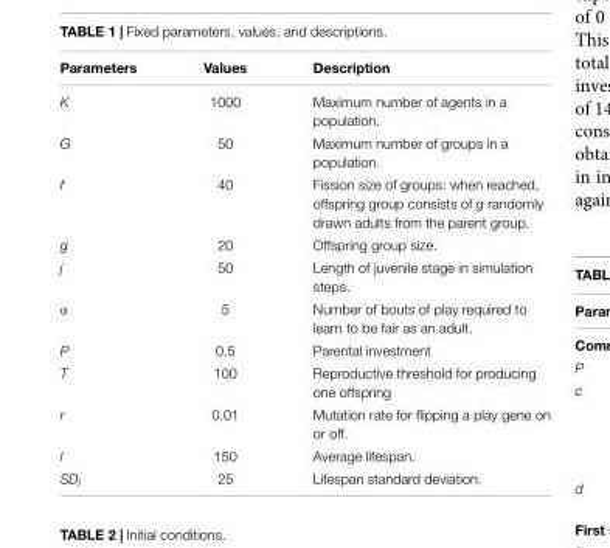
<table><thead><tr><td>Parameters</td><td>Values</td><td>Description</td></tr></thead><tbody><tr><td>K</td><td>1000</td><td>Maximum number of agents in a population.</td></tr><tr><td>G</td><td>50</td><td>Maximum number of groups in a population.</td></tr><tr><td>f</td><td>40</td><td>Fission size of groups: when reached, offspring group consists of g randomly drawn adults from the parent group.</td></tr><tr><td>g</td><td>20</td><td>Offspring group size.</td></tr><tr><td>j</td><td>50</td><td>Length of juvenile stage in simulation steps.</td></tr><tr><td>α</td><td>5</td><td>Number of bouts of play required to learn to be fair as an adult.</td></tr><tr><td>P</td><td>0.5</td><td>Parental investment</td></tr><tr><td>T</td><td>100</td><td>Reproductive threshold for producing one offspring</td></tr><tr><td>r</td><td>0.01</td><td>Mutation rate for flipping a play gene on or off.</td></tr><tr><td>l</td><td>150</td><td>Average lifespan.</td></tr><tr><td>SD<sub>l</sub></td><td>25</td><td>Lifespan standard deviation.</td></tr></tbody></table>